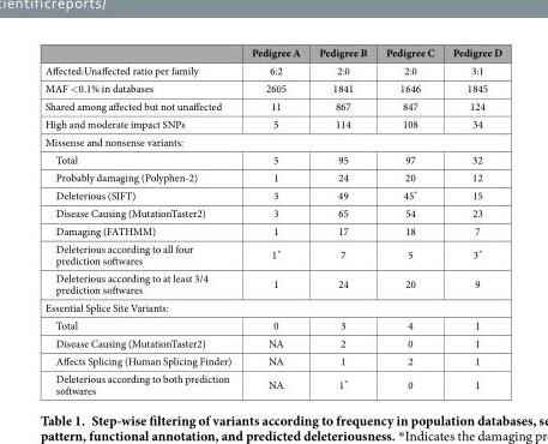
<table><thead><tr><td></td><td>Pedigree A</td><td>Pedigree B</td><td>Pedigree C</td><td>Pedigree D</td></tr></thead><tbody><tr><td>Affected:Unaffected ratio per family</td><td>6:2</td><td>2:0</td><td>2:0</td><td>3:1</td></tr><tr><td>MAF &lt; 0.1% in databases</td><td>2605</td><td>1841</td><td>1646</td><td>1845</td></tr><tr><td>Shared among affected but not unaffected</td><td>11</td><td>867</td><td>847</td><td>124</td></tr><tr><td>High and moderate impact SNPs</td><td>5</td><td>114</td><td>108</td><td>34</td></tr><tr><td colspan="5">Missense and nonsense variants:</td></tr><tr><td>Total</td><td>5</td><td>95</td><td>97</td><td>32</td></tr><tr><td>Probably damaging (Polyphen-2)</td><td>1</td><td>24</td><td>20</td><td>12</td></tr><tr><td>Deleterious (SIFT)</td><td>3</td><td>49</td><td>45*</td><td>15</td></tr><tr><td>Disease Causing (MutationTaster2)</td><td>3</td><td>65</td><td>54</td><td>23</td></tr><tr><td>Damaging (FATHMM)</td><td>1</td><td>17</td><td>18</td><td>7</td></tr><tr><td>Deleterious according to all four prediction softwares</td><td>1*</td><td>7</td><td>5</td><td>3*</td></tr><tr><td>Deleterious according to at least 3/4 prediction softwares</td><td>1</td><td>24</td><td>20</td><td>9</td></tr><tr><td colspan="5">Essential Splice Site Variants:</td></tr><tr><td>Total</td><td>0</td><td>3</td><td>4</td><td>1</td></tr><tr><td>Disease Causing (MutationTaster2)</td><td>NA</td><td>2</td><td>0</td><td>1</td></tr><tr><td>Affects Splicing (Human Splicing Finder)</td><td>NA</td><td>1</td><td>2</td><td>1</td></tr><tr><td>Deleterious according to both prediction softwares</td><td>NA</td><td>1*</td><td>0</td><td>1</td></tr></tbody></table>